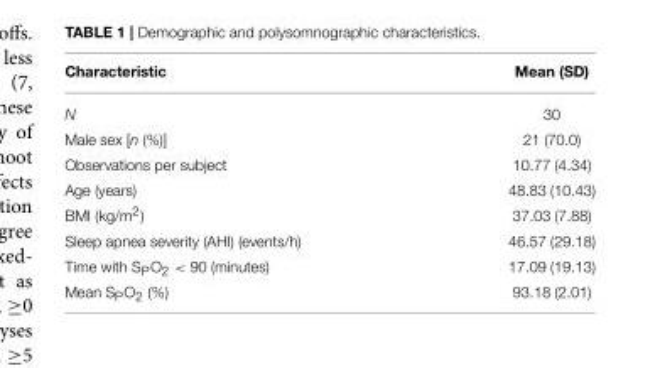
<table><thead><tr><td>Characteristic</td><td>Mean (SD)</td></tr></thead><tbody><tr><td>N</td><td>30</td></tr><tr><td>Male sex [n (%)]</td><td>21 (70.0)</td></tr><tr><td>Observations per subject</td><td>10.77 (4.34)</td></tr><tr><td>Age (years)</td><td>48.83 (10.43)</td></tr><tr><td>BMI (kg/m<sup>2</sup>)</td><td>37.03 (7.88)</td></tr><tr><td>Sleep apnea severity (AHI) (events/h)</td><td>46.57 (29.18)</td></tr><tr><td>Time with S<sub>P</sub>O<sub>2</sub> &lt; 90 (minutes)</td><td>17.09 (19.13)</td></tr><tr><td>Mean S<sub>P</sub>O<sub>2</sub> (%)</td><td>93.18 (2.01)</td></tr></tbody></table>